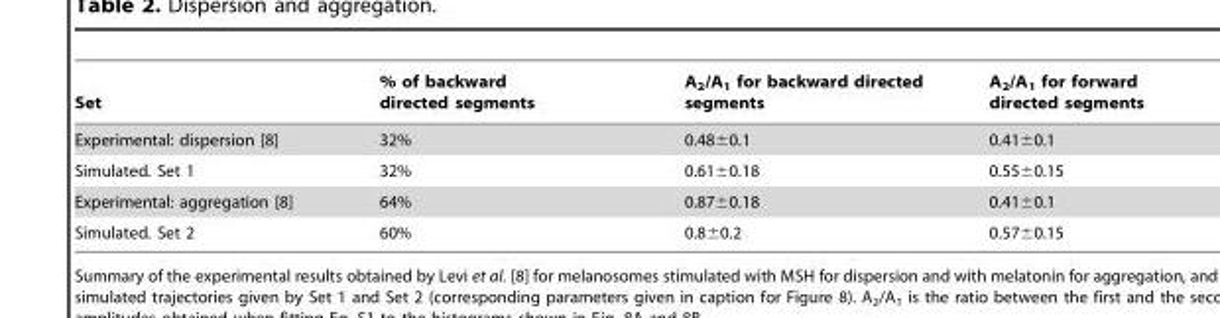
<table><thead><tr><td>Set</td><td>% of backward directed segments</td><td>A<sub>2</sub>/A<sub>1</sub> for backward directed segments</td><td>A<sub>2</sub>/A<sub>1</sub> for forward directed segments</td></tr></thead><tbody><tr><td>Experimental: dispersion [8]</td><td>32%</td><td>0.48±0.1</td><td>0.41±0.1</td></tr><tr><td>Simulated. Set 1</td><td>32%</td><td>0.61±0.18</td><td>0.55±0.15</td></tr><tr><td>Experimental: aggregation [8]</td><td>64%</td><td>0.87±0.18</td><td>0.41±0.1</td></tr><tr><td>Simulated. Set 2</td><td>60%</td><td>0.8±0.2</td><td>0.57±0.15</td></tr></tbody></table>